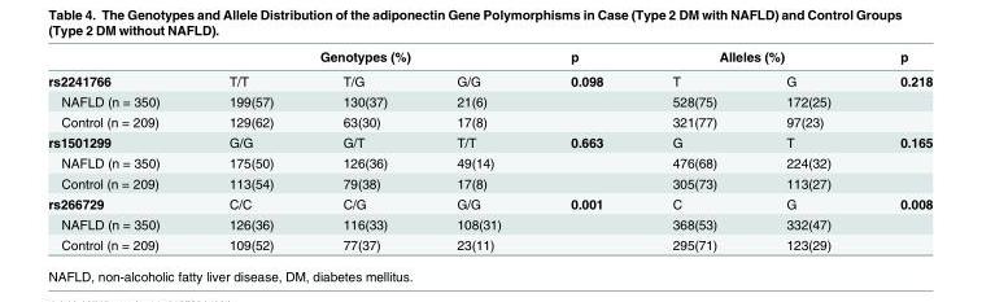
<table><thead><tr><td rowspan="2">rs2241766</td><td colspan="3">Genotypes (%)</td><td rowspan="2">p 0.098</td><td colspan="2">Alleles (%)</td><td rowspan="2">p 0.218</td></tr><tr><td>T/T</td><td>T/G</td><td>G/G</td><td>T</td><td>G</td></tr></thead><tbody><tr><td>NAFLD (n = 350)</td><td>199(57)</td><td>130(37)</td><td>21(6)</td><td></td><td>528(75)</td><td>172(25)</td><td></td></tr><tr><td>Control (n = 209)</td><td>129(62)</td><td>63(30)</td><td>17(8)</td><td></td><td>321(77)</td><td>97(23)</td><td></td></tr><tr><td>rs1501299</td><td>G/G</td><td>G/T</td><td>T/T</td><td>0.663</td><td>G</td><td>T</td><td>0.165</td></tr><tr><td>NAFLD (n = 350)</td><td>175(50)</td><td>126(36)</td><td>49(14)</td><td></td><td>476(68)</td><td>224(32)</td><td></td></tr><tr><td>Control (n = 209)</td><td>113(54)</td><td>79(38)</td><td>17(8)</td><td></td><td>305(73)</td><td>113(27)</td><td></td></tr><tr><td>rs266729</td><td>C/C</td><td>C/G</td><td>G/G</td><td>0.001</td><td>C</td><td>G</td><td>0.008</td></tr><tr><td>NAFLD (n = 350)</td><td>126(36)</td><td>116(33)</td><td>108(31)</td><td></td><td>368(53)</td><td>332(47)</td><td></td></tr><tr><td>Control (n = 209)</td><td>109(52)</td><td>77(37)</td><td>23(11)</td><td></td><td>295(71)</td><td>123(29)</td><td></td></tr></tbody></table>